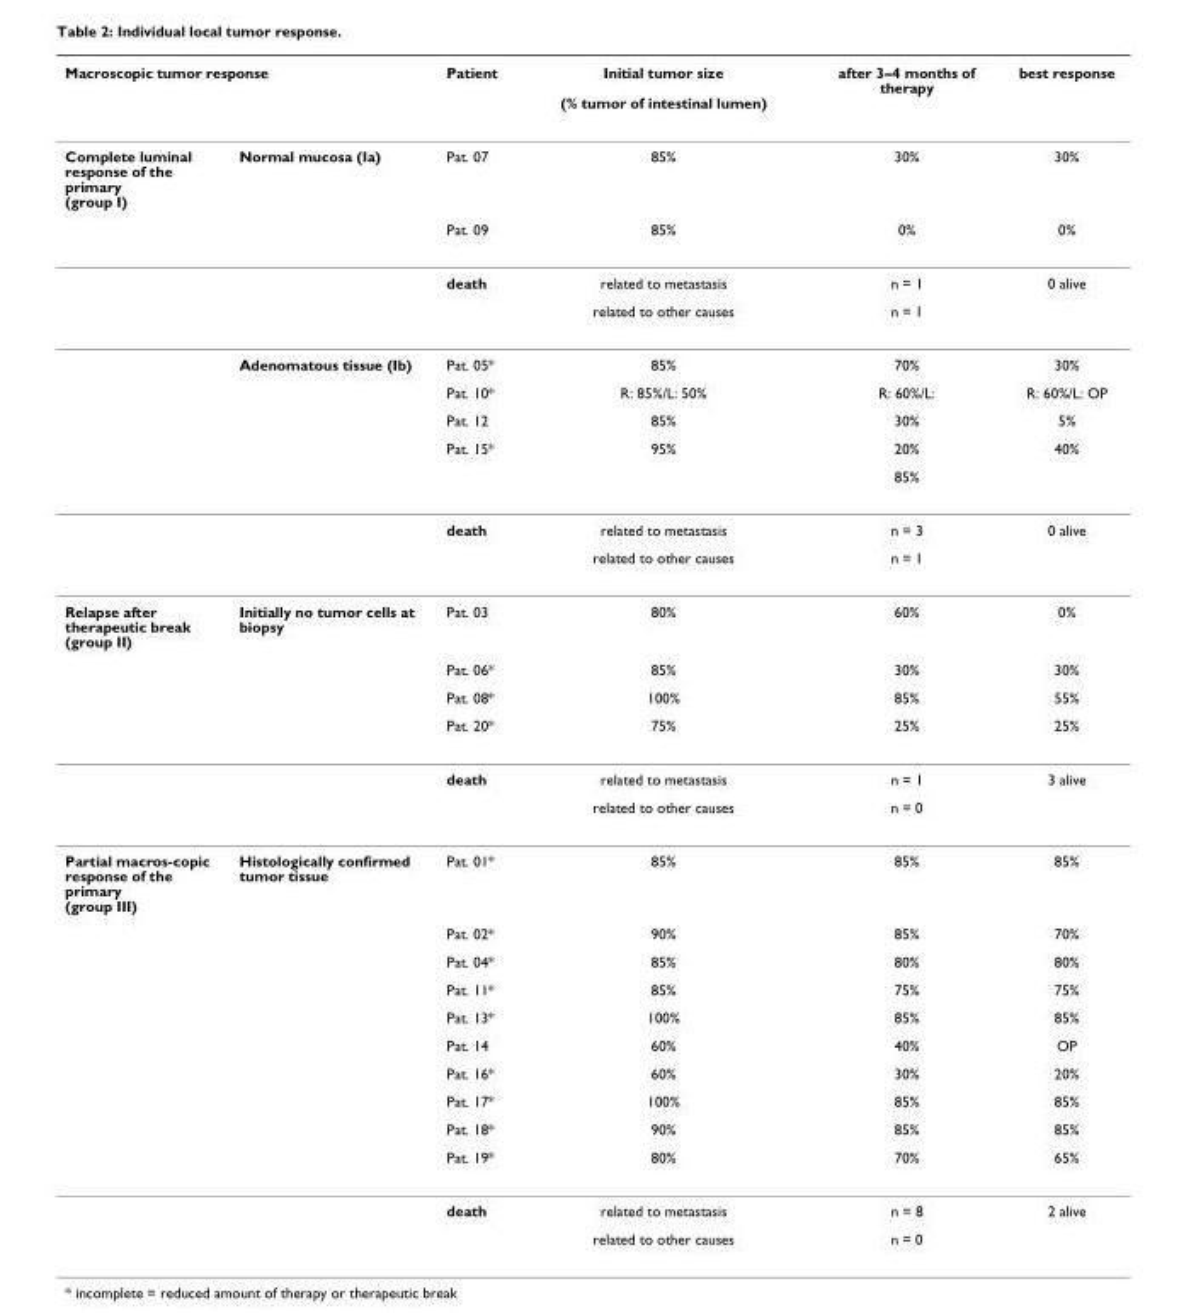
<table><thead><tr><td colspan="2">Macroscopic tumor response</td><td rowspan="2">Patient Pat. 07</td><td rowspan="2">Initial tumor size (% tumor of intestinal lumen) 85%</td><td rowspan="2">after 3–4 months of therapy 30%</td><td rowspan="2">best response 30%</td></tr><tr><td>Complete luminal response of the primary (group I)</td><td>Normal mucosa (Ia)</td></tr></thead><tbody><tr><td></td><td></td><td>Pat. 09</td><td>85%</td><td>0%</td><td>0%</td></tr><tr><td></td><td></td><td>death</td><td>related to metastasis</td><td>n = 1</td><td>0 alive</td></tr><tr><td></td><td></td><td></td><td>related to other causes</td><td>n = 1</td><td></td></tr><tr><td></td><td>Adenomatous tissue (Ib)</td><td>Pat. 05*</td><td>85%</td><td>70%</td><td>30%</td></tr><tr><td></td><td></td><td>Pat. 10*</td><td>R: 85%/L: 50%</td><td>R: 60%/L:</td><td>R: 60%/L: OP</td></tr><tr><td></td><td></td><td>Pat. 12</td><td>85%</td><td>30%</td><td>5%</td></tr><tr><td></td><td></td><td>Pat. 15*</td><td>95%</td><td>20%</td><td>40%</td></tr><tr><td></td><td></td><td></td><td></td><td>85%</td><td></td></tr><tr><td></td><td></td><td>death</td><td>related to metastasis</td><td>n = 3</td><td>0 alive</td></tr><tr><td></td><td></td><td></td><td>related to other causes</td><td>n = 1</td><td></td></tr><tr><td rowspan="6">Relapse after therapeutic break (group II)</td><td>Initially no tumor cells at biopsy</td><td>Pat. 03</td><td>80%</td><td>60%</td><td>0%</td></tr><tr><td></td><td>Pat. 06*</td><td>85%</td><td>30%</td><td>30%</td></tr><tr><td></td><td>Pat. 08*</td><td>100%</td><td>85%</td><td>55%</td></tr><tr><td></td><td>Pat. 20*</td><td>75%</td><td>25%</td><td>25%</td></tr><tr><td></td><td>death</td><td>related to metastasis</td><td>n = 1</td><td>3 alive</td></tr><tr><td></td><td></td><td>related to other causes</td><td>n = 0</td><td></td></tr><tr><td rowspan="12">Partial macros-copic response of the primary (group III)</td><td>Histologically confirmed tumor tissue</td><td>Pat. 01*</td><td>85%</td><td>85%</td><td>85%</td></tr><tr><td></td><td>Pat. 02*</td><td>90%</td><td>85%</td><td>70%</td></tr><tr><td></td><td>Pat. 04*</td><td>85%</td><td>80%</td><td>80%</td></tr><tr><td></td><td>Pat. 11*</td><td>85%</td><td>75%</td><td>75%</td></tr><tr><td></td><td>Pat. 13*</td><td>100%</td><td>85%</td><td>85%</td></tr><tr><td></td><td>Pat. 14</td><td>60%</td><td>40%</td><td>OP</td></tr><tr><td></td><td>Pat. 16*</td><td>60%</td><td>30%</td><td>20%</td></tr><tr><td></td><td>Pat. 17*</td><td>100%</td><td>85%</td><td>85%</td></tr><tr><td></td><td>Pat. 18*</td><td>90%</td><td>85%</td><td>85%</td></tr><tr><td></td><td>Pat. 19*</td><td>80%</td><td>70%</td><td>65%</td></tr><tr><td></td><td>death</td><td>related to metastasis</td><td>n = 8</td><td>2 alive</td></tr><tr><td></td><td></td><td>related to other causes</td><td>n = 0</td><td></td></tr></tbody></table>